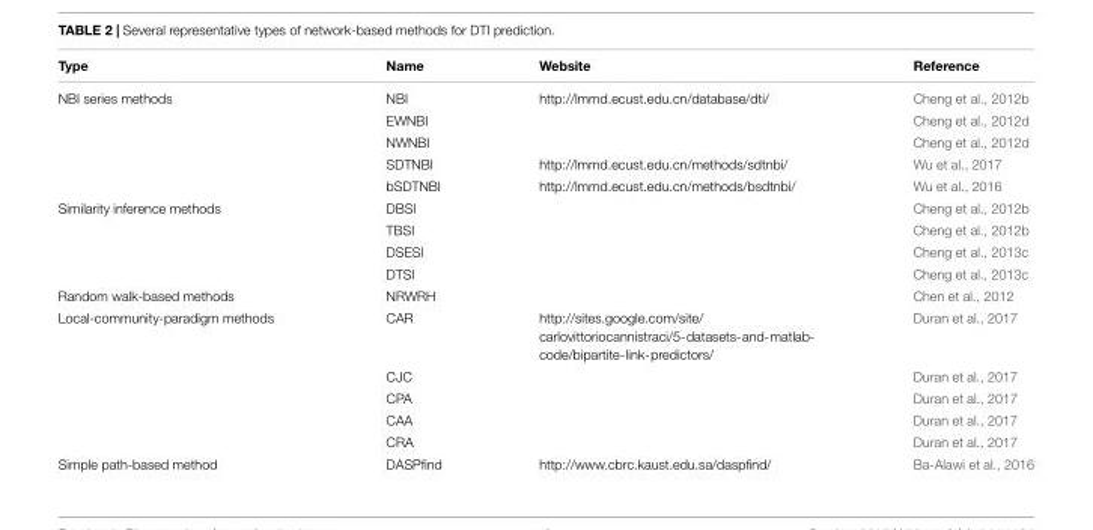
<table><thead><tr><td>Type</td><td>Name</td><td>Website</td><td>Reference</td></tr></thead><tbody><tr><td rowspan="5">NBI series methods</td><td>NBI</td><td>http://lmmd.ecust.edu.cn/database/dti/</td><td>Cheng et al., 2012b</td></tr><tr><td>EWNBI</td><td></td><td>Cheng et al., 2012d</td></tr><tr><td>NWNBI</td><td></td><td>Cheng et al., 2012d</td></tr><tr><td>SDTNBI</td><td>http://lmmd.ecust.edu.cn/methods/sdtnbi/</td><td>Wu et al., 2017</td></tr><tr><td>bSDTNBI</td><td>http://lmmd.ecust.edu.cn/methods/bsdtnbi/</td><td>Wu et al., 2016</td></tr><tr><td rowspan="4">Similarity inference methods</td><td>DBSI</td><td></td><td>Cheng et al., 2012b</td></tr><tr><td>TBSI</td><td></td><td>Cheng et al., 2012b</td></tr><tr><td>DSESI</td><td></td><td>Cheng et al., 2013c</td></tr><tr><td>DTSI</td><td></td><td>Cheng et al., 2013c</td></tr><tr><td>Random walk-based methods</td><td>NRWRH</td><td></td><td>Chen et al., 2012</td></tr><tr><td rowspan="5">Local-community-paradigm methods</td><td>CAR</td><td>http://sites.google.com/site/ carlovittoriocannistraci/5-datasets-and-matlab- code/bipartite-link-predictors/</td><td>Duran et al., 2017</td></tr><tr><td>CJC</td><td></td><td>Duran et al., 2017</td></tr><tr><td>CPA</td><td></td><td>Duran et al., 2017</td></tr><tr><td>CAA</td><td></td><td>Duran et al., 2017</td></tr><tr><td>CRA</td><td></td><td>Duran et al., 2017</td></tr><tr><td>Simple path-based method</td><td>DASPfind</td><td>http://www.cbrc.kaust.edu.sa/daspfind/</td><td>Ba-Alawi et al., 2016</td></tr></tbody></table>